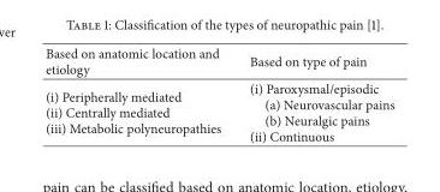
<table><thead><tr><td>Based on anatomic location and etiology</td><td>Based on type of pain</td></tr></thead><tbody><tr><td>(i) Peripherally mediated (ii) Centrally mediated (iii) Metabolic polyneuropathies</td><td>(i) Paroxysmal/episodic (a) Neurovascular pains (b) Neuralgic pains (ii) Continuous</td></tr></tbody></table>